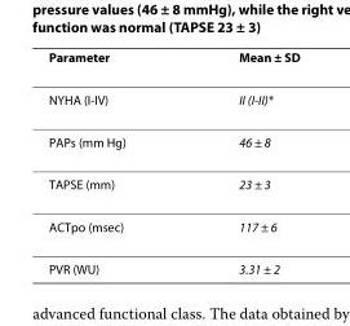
<table><thead><tr><td>Parameter</td><td>Mean ± SD</td></tr></thead><tbody><tr><td>NYHA (I-IV)</td><td>II (I-II)*</td></tr><tr><td>PAPs (mm Hg)</td><td>46 ± 8</td></tr><tr><td>TAPSE (mm)</td><td>23 ± 3</td></tr><tr><td>ACTpo (msec)</td><td>117 ± 6</td></tr><tr><td>PVR (WU)</td><td>3.31 ± 2</td></tr></tbody></table>